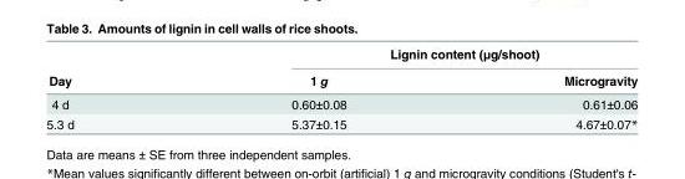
<table><thead><tr><td rowspan="2">Day</td><td colspan="2">Lignin content (μg/shoot)</td></tr><tr><td>1 g</td><td>Microgravity</td></tr></thead><tbody><tr><td>4 d</td><td>0.60±0.08</td><td>0.61±0.06</td></tr><tr><td>5.3 d</td><td>5.37±0.15</td><td>4.67±0.07*</td></tr></tbody></table>